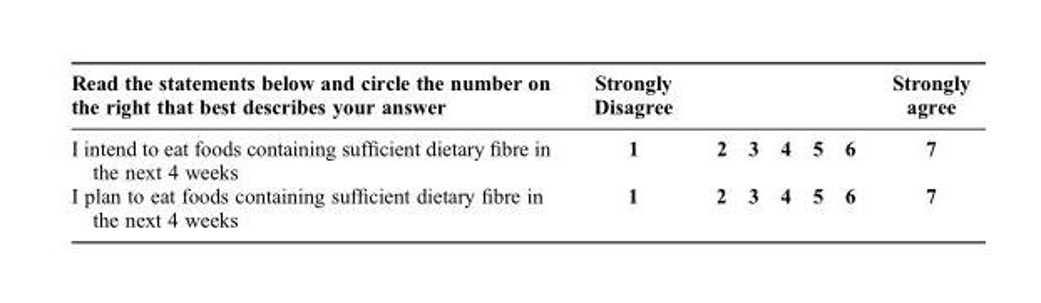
<table><thead><tr><td>Read the statements below and circle the number on the right that best describes your answer</td><td>Strongly Disagree</td><td></td><td></td><td></td><td></td><td></td><td>Strongly agree</td></tr></thead><tbody><tr><td>I intend to eat foods containing sufficient dietary fibre in the next 4 weeks</td><td>1</td><td>2</td><td>3</td><td>4</td><td>5</td><td>6</td><td>7</td></tr><tr><td>I plan to eat foods containing sufficient dietary fibre in the next 4 weeks</td><td>1</td><td>2</td><td>3</td><td>4</td><td>5</td><td>6</td><td>7</td></tr></tbody></table>